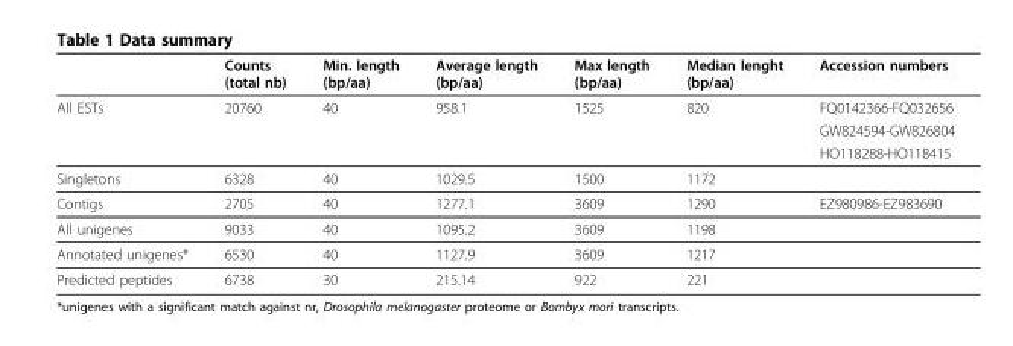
<table><thead><tr><td></td><td>Counts (total nb)</td><td>Min. length (bp/aa)</td><td>Average length (bp/aa)</td><td>Max length (bp/aa)</td><td>Median lenght (bp/aa)</td><td>Accession numbers</td></tr></thead><tbody><tr><td rowspan="3">All ESTs</td><td>20760</td><td>40</td><td>958.1</td><td>1525</td><td>820</td><td>FQ0142366-FQ032656</td></tr><tr><td></td><td></td><td></td><td></td><td></td><td>GW824594-GW826804</td></tr><tr><td></td><td></td><td></td><td></td><td></td><td>HO118288-HO118415</td></tr><tr><td>Singletons</td><td>6328</td><td>40</td><td>1029.5</td><td>1500</td><td>1172</td><td></td></tr><tr><td>Contigs</td><td>2705</td><td>40</td><td>1277.1</td><td>3609</td><td>1290</td><td>EZ980986-EZ983690</td></tr><tr><td>All unigenes</td><td>9033</td><td>40</td><td>1095.2</td><td>3609</td><td>1198</td><td></td></tr><tr><td>Annotated unigenes*</td><td>6530</td><td>40</td><td>1127.9</td><td>3609</td><td>1217</td><td></td></tr><tr><td>Predicted peptides</td><td>6738</td><td>30</td><td>215.14</td><td>922</td><td>221</td><td></td></tr></tbody></table>